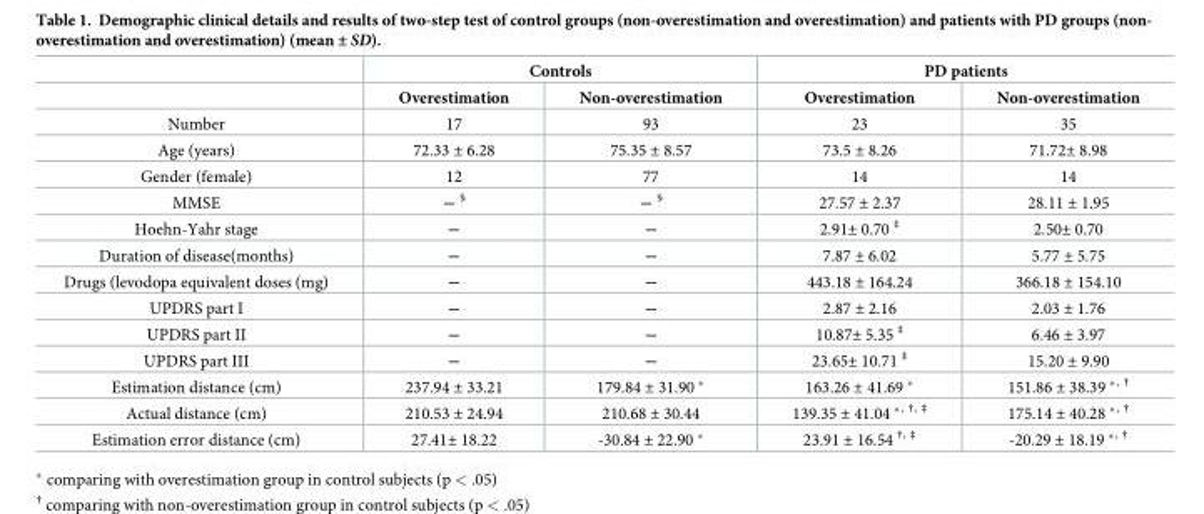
<table><thead><tr><td rowspan="2"></td><td colspan="2">Controls</td><td colspan="2">PD patients</td></tr><tr><td>Overestimation</td><td>Non-overestimation</td><td>Overestimation</td><td>Non-overestimation</td></tr></thead><tbody><tr><td>Number</td><td>17</td><td>93</td><td>23</td><td>35</td></tr><tr><td>Age (years)</td><td>72.33 ± 6.28</td><td>75.35 ± 8.57</td><td>73.5 ± 8.26</td><td>71.72± 8.98</td></tr><tr><td>Gender (female)</td><td>12</td><td>77</td><td>14</td><td>14</td></tr><tr><td>MMSE</td><td>― <sup>§</sup></td><td>― <sup>§</sup></td><td>27.57 ± 2.37</td><td>28.11 ± 1.95</td></tr><tr><td>Hoehn-Yahr stage</td><td>―</td><td>―</td><td>2.91± 0.70 <sup>‡</sup></td><td>2.50± 0.70</td></tr><tr><td>Duration of disease(months)</td><td>―</td><td>―</td><td>7.87 ± 6.02</td><td>5.77 ± 5.75</td></tr><tr><td>Drugs (levodopa equivalent doses (mg)</td><td>―</td><td>―</td><td>443.18 ± 164.24</td><td>366.18 ± 154.10</td></tr><tr><td>UPDRS part I</td><td>―</td><td>―</td><td>2.87 ± 2.16</td><td>2.03 ± 1.76</td></tr><tr><td>UPDRS part II</td><td>―</td><td>―</td><td>10.87± 5.35 <sup>‡</sup></td><td>6.46 ± 3.97</td></tr><tr><td>UPDRS part III</td><td>―</td><td>―</td><td>23.65± 10.71 <sup>‡</sup></td><td>15.20 ± 9.90</td></tr><tr><td>Estimation distance (cm)</td><td>237.94 ± 33.21</td><td>179.84 ± 31.90 *</td><td>163.26 ± 41.69 *</td><td>151.86 ± 38.39 *<sup>, †</sup></td></tr><tr><td>Actual distance (cm)</td><td>210.53 ± 24.94</td><td>210.68 ± 30.44</td><td>139.35 ± 41.04 *<sup>, †, ‡</sup></td><td>175.14 ± 40.28 *<sup>, †</sup></td></tr><tr><td>Estimation error distance (cm)</td><td>27.41± 18.22</td><td>-30.84 ± 22.90 *</td><td>23.91 ± 16.54 <sup>†, ‡</sup></td><td>-20.29 ± 18.19 *<sup>, †</sup></td></tr></tbody></table>